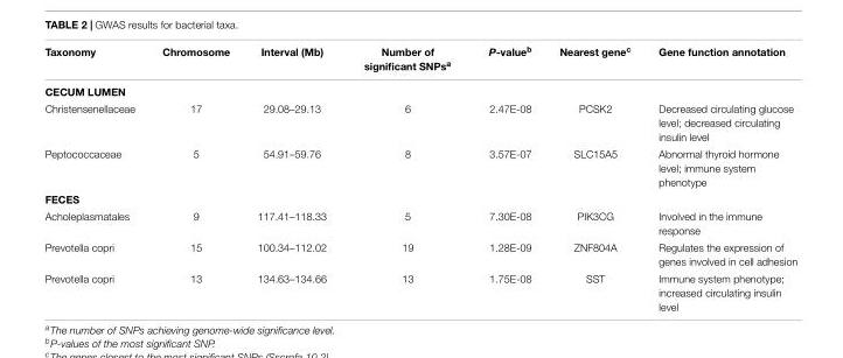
<table><thead><tr><td>Taxonomy</td><td>Chromosome</td><td>Interval (Mb)</td><td>Number of significant SNPs<sup>a</sup></td><td>P-value<sup>b</sup></td><td>Nearest gene<sup>c</sup></td><td>Gene function annotation</td></tr></thead><tbody><tr><td colspan="7">CECUM LUMEN</td></tr><tr><td>Christensenellaceae</td><td>17</td><td>29.08–29.13</td><td>6</td><td>2.47E-08</td><td>PCSK2</td><td>Decreased circulating glucose level; decreased circulating insulin level</td></tr><tr><td>Peptococcaceae</td><td>5</td><td>54.91–59.76</td><td>8</td><td>3.57E-07</td><td>SLC15A5</td><td>Abnormal thyroid hormone level; immune system phenotype</td></tr><tr><td colspan="7">FECES</td></tr><tr><td>Acholeplasmatales</td><td>9</td><td>117.41–118.33</td><td>5</td><td>7.30E-08</td><td>PIK3CG</td><td>Involved in the immune response</td></tr><tr><td>Prevotella copri</td><td>15</td><td>100.34–112.02</td><td>19</td><td>1.28E-09</td><td>ZNF804A</td><td>Regulates the expression of genes involved in cell adhesion</td></tr><tr><td>Prevotella copri</td><td>13</td><td>134.63–134.66</td><td>13</td><td>1.75E-08</td><td>SST</td><td>Immune system phenotype; increased circulating insulin level</td></tr></tbody></table>